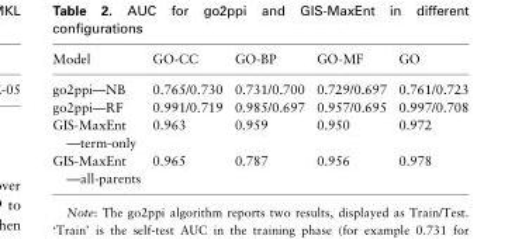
<table><thead><tr><td>Model</td><td>GO-CC</td><td>GO-BP</td><td>GO-MF</td><td>GO</td></tr></thead><tbody><tr><td>go2ppi—NB</td><td>0.765/0.730</td><td>0.731/0.700</td><td>0.729/0.697</td><td>0.761/0.723</td></tr><tr><td>go2ppi—RF</td><td>0.991/0.719</td><td>0.985/0.697</td><td>0.957/0.695</td><td>0.997/0.708</td></tr><tr><td>GIS-MaxEnt —term-only</td><td>0.963</td><td>0.959</td><td>0.950</td><td>0.972</td></tr><tr><td>GIS-MaxEnt —all-parents</td><td>0.965</td><td>0.787</td><td>0.956</td><td>0.978</td></tr></tbody></table>